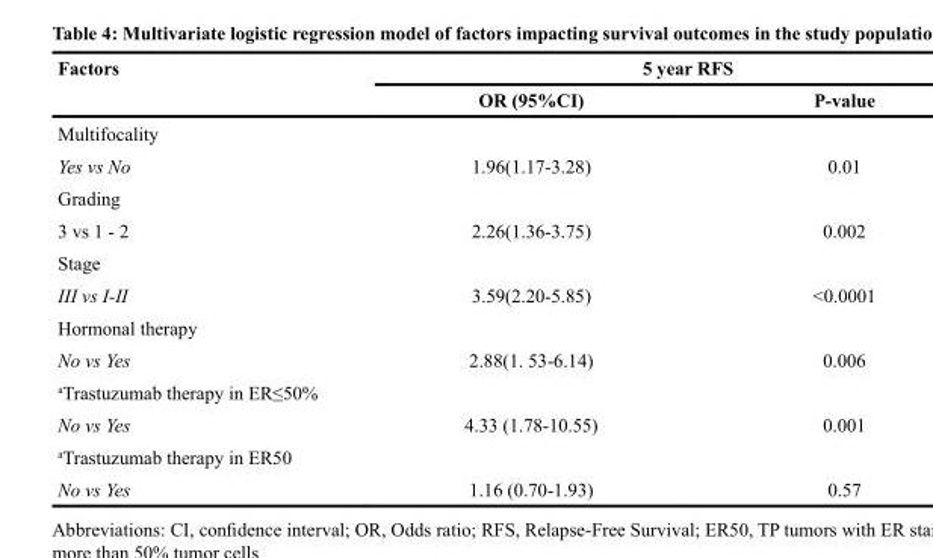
<table><thead><tr><td rowspan="2">Factors</td><td colspan="2">5 year RFS</td></tr><tr><td>OR (95%CI)</td><td>P-value</td></tr></thead><tbody><tr><td colspan="3">Multifocality</td></tr><tr><td>Yes vs No</td><td>1.96(1.17-3.28)</td><td>0.01</td></tr><tr><td colspan="3">Grading</td></tr><tr><td>3 vs 1 - 2</td><td>2.26(1.36-3.75)</td><td>0.002</td></tr><tr><td colspan="3">Stage</td></tr><tr><td>III vs I-II</td><td>3.59(2.20-5.85)</td><td>&lt;0.0001</td></tr><tr><td colspan="3">Hormonal therapy</td></tr><tr><td>No vs Yes</td><td>2.88(1. 53-6.14)</td><td>0.006</td></tr><tr><td colspan="3"><sup>a</sup>Trastuzumab therapy in ER≤50%</td></tr><tr><td>No vs Yes</td><td>4.33 (1.78-10.55)</td><td>0.001</td></tr><tr><td colspan="3"><sup>a</sup>Trastuzumab therapy in ER50</td></tr><tr><td>No vs Yes</td><td>1.16 (0.70-1.93)</td><td>0.57</td></tr></tbody></table>